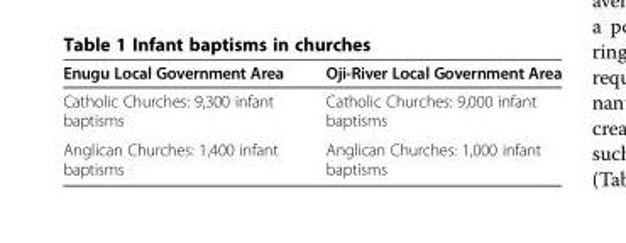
<table><thead><tr><td>Enugu Local Government Area</td><td>Oji-River Local Government Area</td></tr></thead><tbody><tr><td>Catholic Churches: 9,300 infant baptisms</td><td>Catholic Churches: 9,000 infant baptisms</td></tr><tr><td>Anglican Churches: 1,400 infant baptisms</td><td>Anglican Churches: 1,000 infant baptisms</td></tr></tbody></table>